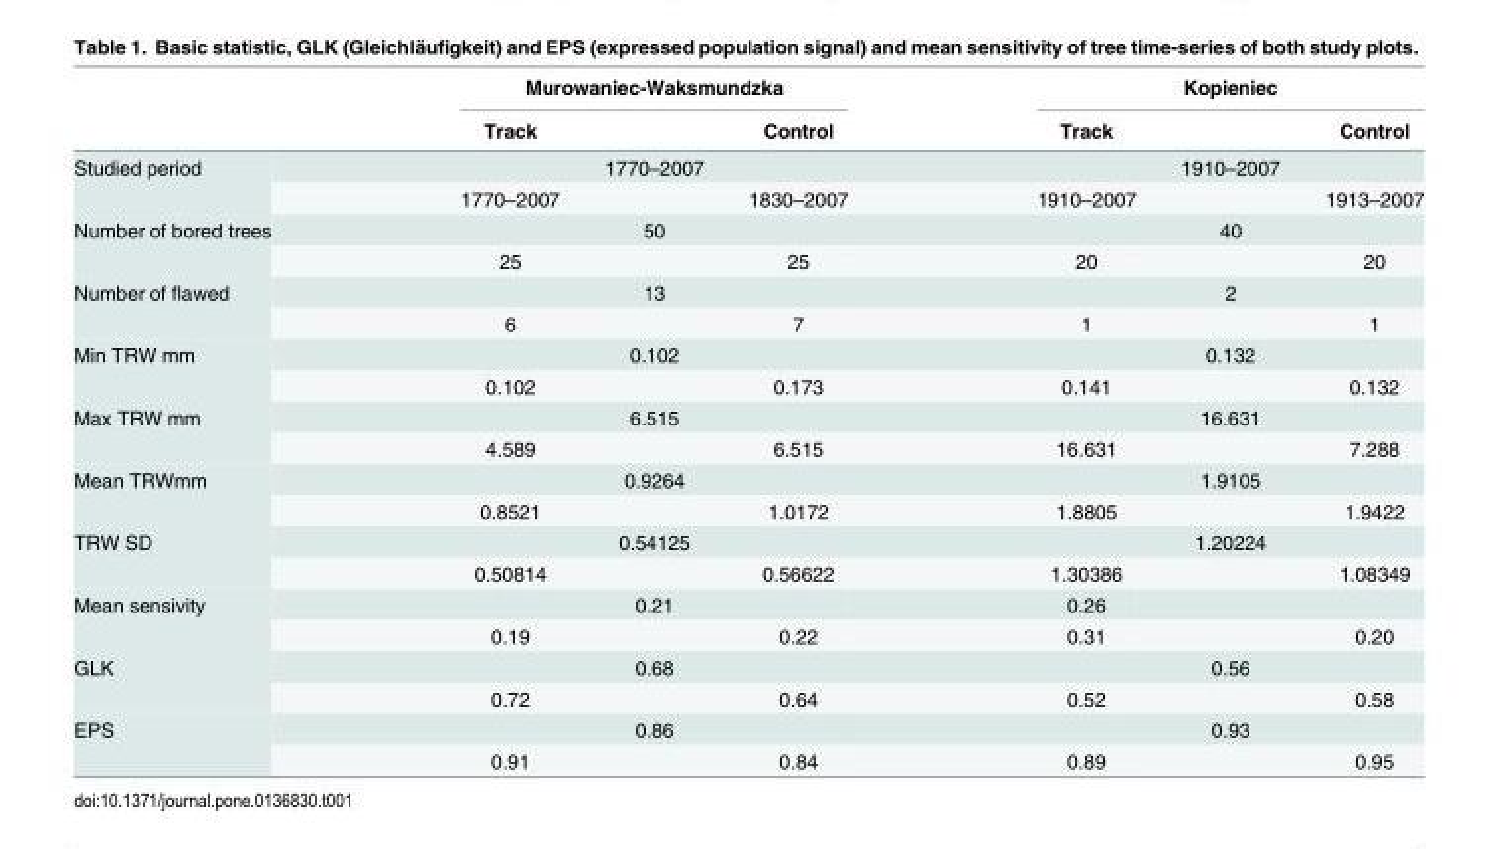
<table><thead><tr><td rowspan="2"></td><td colspan="2">Murowaniec-Waksmundzka</td><td colspan="2">Kopieniec</td></tr><tr><td>Track</td><td>Control</td><td>Track</td><td>Control</td></tr></thead><tbody><tr><td rowspan="2">Studied period</td><td colspan="2">1770–2007</td><td colspan="2">1910–2007</td></tr><tr><td>1770–2007</td><td>1830–2007</td><td>1910–2007</td><td>1913–2007</td></tr><tr><td rowspan="2">Number of bored trees</td><td colspan="2">50</td><td colspan="2">40</td></tr><tr><td>25</td><td>25</td><td>20</td><td>20</td></tr><tr><td rowspan="2">Number of flawed</td><td colspan="2">13</td><td colspan="2">2</td></tr><tr><td>6</td><td>7</td><td>1</td><td>1</td></tr><tr><td rowspan="2">Min TRW mm</td><td colspan="2">0.102</td><td colspan="2">0.132</td></tr><tr><td>0.102</td><td>0.173</td><td>0.141</td><td>0.132</td></tr><tr><td rowspan="2">Max TRW mm</td><td colspan="2">6.515</td><td colspan="2">16.631</td></tr><tr><td>4.589</td><td>6.515</td><td>16.631</td><td>7.288</td></tr><tr><td rowspan="2">Mean TRWmm</td><td colspan="2">0.9264</td><td colspan="2">1.9105</td></tr><tr><td>0.8521</td><td>1.0172</td><td>1.8805</td><td>1.9422</td></tr><tr><td rowspan="2">TRW SD</td><td colspan="2">0.54125</td><td colspan="2">1.20224</td></tr><tr><td>0.50814</td><td>0.56622</td><td>1.30386</td><td>1.08349</td></tr><tr><td rowspan="2">Mean sensivity</td><td colspan="2">0.21</td><td>0.26</td><td></td></tr><tr><td>0.19</td><td>0.22</td><td>0.31</td><td>0.20</td></tr><tr><td rowspan="2">GLK</td><td colspan="2">0.68</td><td colspan="2">0.56</td></tr><tr><td>0.72</td><td>0.64</td><td>0.52</td><td>0.58</td></tr><tr><td rowspan="2">EPS</td><td colspan="2">0.86</td><td colspan="2">0.93</td></tr><tr><td>0.91</td><td>0.84</td><td>0.89</td><td>0.95</td></tr></tbody></table>